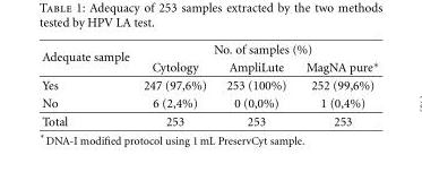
<table><thead><tr><td rowspan="2">Adequate sample</td><td colspan="3">No. of samples (%)</td></tr><tr><td>Cytology</td><td>AmpliLute</td><td>MagNA pure∗</td></tr></thead><tbody><tr><td>Yes</td><td>247 (97,6%)</td><td>253 (100%)</td><td>252 (99,6%)</td></tr><tr><td>No</td><td>6 (2,4%)</td><td>0 (0,0%)</td><td>1 (0,4%)</td></tr><tr><td>Total</td><td>253</td><td>253</td><td>253</td></tr></tbody></table>